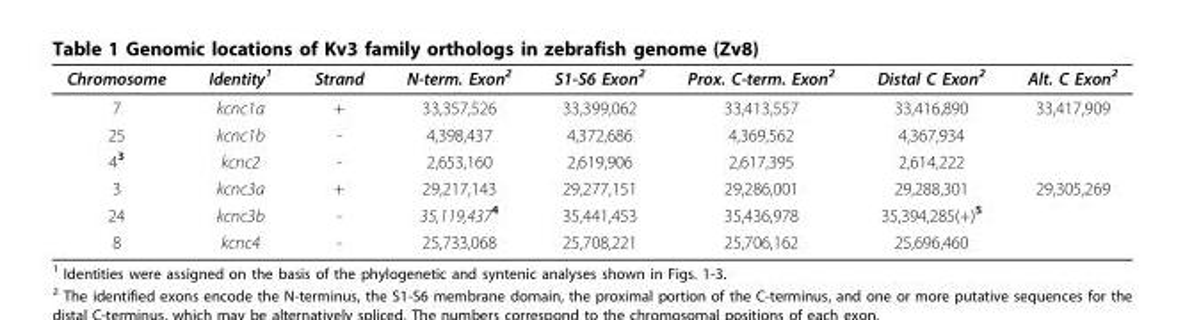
<table><thead><tr><td>Chromosome</td><td>Identity<sup>1</sup></td><td>Strand</td><td>N-term. Exon<sup>2</sup></td><td>S1-S6 Exon<sup>2</sup></td><td>Prox. C-term. Exon<sup>2</sup></td><td>Distal C Exon<sup>2</sup></td><td>Alt. C Exon<sup>2</sup></td></tr></thead><tbody><tr><td>7</td><td>kcnc1a</td><td>+</td><td>33,357,526</td><td>33,399,062</td><td>33,413,557</td><td>33,416,890</td><td>33,417,909</td></tr><tr><td>25</td><td>kcnc1b</td><td>-</td><td>4,398,437</td><td>4,372,686</td><td>4,369,562</td><td>4,367,934</td><td></td></tr><tr><td>4<sup>3</sup></td><td>kcnc2</td><td>-</td><td>2,653,160</td><td>2,619,906</td><td>2,617,395</td><td>2,614,222</td><td></td></tr><tr><td>3</td><td>kcnc3a</td><td>+</td><td>29,217,143</td><td>29,277,151</td><td>29,286,001</td><td>29,288,301</td><td>29,305,269</td></tr><tr><td>24</td><td>kcnc3b</td><td>-</td><td>35,119,437<sup>4</sup></td><td>35,441,453</td><td>35,436,978</td><td>35,394,285(+)<sup>5</sup></td><td></td></tr><tr><td>8</td><td>kcnc4</td><td>-</td><td>25,733,068</td><td>25,708,221</td><td>25,706,162</td><td>25,696,460</td><td></td></tr></tbody></table>